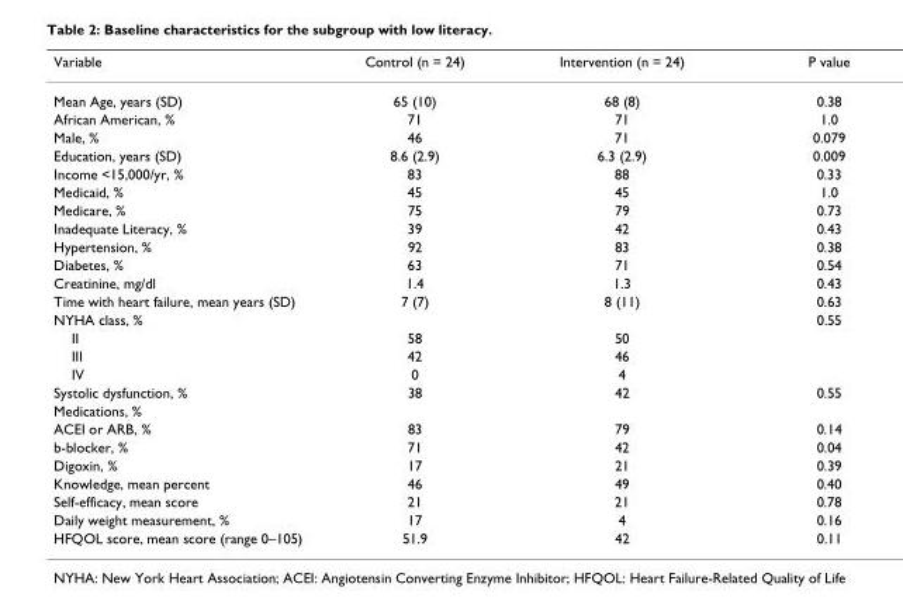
<table><thead><tr><td>Variable</td><td>Control (n = 24)</td><td>Intervention (n = 24)</td><td>P value</td></tr></thead><tbody><tr><td>Mean Age, years (SD)</td><td>65 (10)</td><td>68 (8)</td><td>0.38</td></tr><tr><td>African American, %</td><td>71</td><td>71</td><td>1.0</td></tr><tr><td>Male, %</td><td>46</td><td>71</td><td>0.079</td></tr><tr><td>Education, years (SD)</td><td>8.6 (2.9)</td><td>6.3 (2.9)</td><td>0.009</td></tr><tr><td>Income &lt;15,000/yr, %</td><td>83</td><td>88</td><td>0.33</td></tr><tr><td>Medicaid, %</td><td>45</td><td>45</td><td>1.0</td></tr><tr><td>Medicare, %</td><td>75</td><td>79</td><td>0.73</td></tr><tr><td>Inadequate Literacy, %</td><td>39</td><td>42</td><td>0.43</td></tr><tr><td>Hypertension, %</td><td>92</td><td>83</td><td>0.38</td></tr><tr><td>Diabetes, %</td><td>63</td><td>71</td><td>0.54</td></tr><tr><td>Creatinine, mg/dl</td><td>1.4</td><td>1.3</td><td>0.43</td></tr><tr><td>Time with heart failure, mean years (SD)</td><td>7 (7)</td><td>8 (11)</td><td>0.63</td></tr><tr><td>NYHA class, %</td><td></td><td></td><td>0.55</td></tr><tr><td>II</td><td>58</td><td>50</td><td></td></tr><tr><td>III</td><td>42</td><td>46</td><td></td></tr><tr><td>IV</td><td>0</td><td>4</td><td></td></tr><tr><td>Systolic dysfunction, %</td><td>38</td><td>42</td><td>0.55</td></tr><tr><td colspan="4">Medications, %</td></tr><tr><td>ACEI or ARB, %</td><td>83</td><td>79</td><td>0.14</td></tr><tr><td>b-blocker, %</td><td>71</td><td>42</td><td>0.04</td></tr><tr><td>Digoxin, %</td><td>17</td><td>21</td><td>0.39</td></tr><tr><td>Knowledge, mean percent</td><td>46</td><td>49</td><td>0.40</td></tr><tr><td>Self-efficacy, mean score</td><td>21</td><td>21</td><td>0.78</td></tr><tr><td>Daily weight measurement, %</td><td>17</td><td>4</td><td>0.16</td></tr><tr><td>HFQOL score, mean score (range 0–105)</td><td>51.9</td><td>42</td><td>0.11</td></tr></tbody></table>